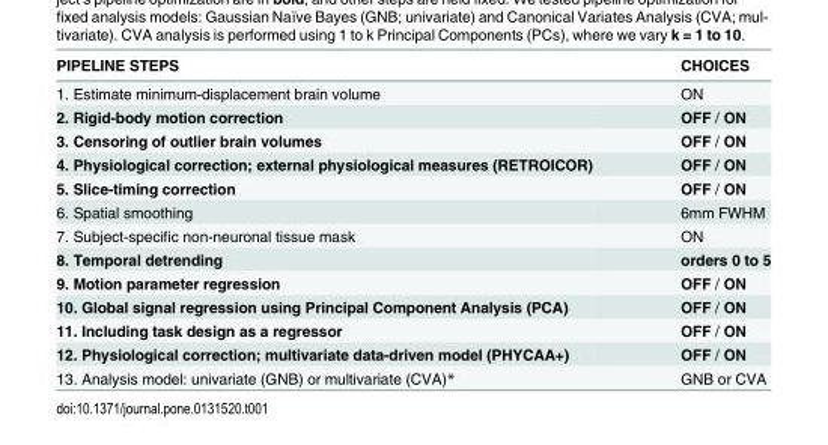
<table><thead><tr><td>PIPELINE STEPS</td><td>CHOICES</td></tr></thead><tbody><tr><td>1. Estimate minimum-displacement brain volume</td><td>ON</td></tr><tr><td>2. Rigid-body motion correction</td><td>OFF / ON</td></tr><tr><td>3. Censoring of outlier brain volumes</td><td>OFF / ON</td></tr><tr><td>4. Physiological correction; external physiological measures (RETROICOR)</td><td>OFF / ON</td></tr><tr><td>5. Slice-timing correction</td><td>OFF / ON</td></tr><tr><td>6. Spatial smoothing</td><td>6mm FWHM</td></tr><tr><td>7. Subject-specific non-neuronal tissue mask</td><td>ON</td></tr><tr><td>8. Temporal detrending</td><td>orders 0 to 5</td></tr><tr><td>9. Motion parameter regression</td><td>OFF / ON</td></tr><tr><td>10. Global signal regression using Principal Component Analysis (PCA)</td><td>OFF / ON</td></tr><tr><td>11. Including task design as a regressor</td><td>OFF / ON</td></tr><tr><td>12. Physiological correction; multivariate data-driven model (PHYCAA+)</td><td>OFF / ON</td></tr><tr><td>13. Analysis model: univariate (GNB) or multivariate (CVA)*</td><td>GNB or CVA</td></tr></tbody></table>